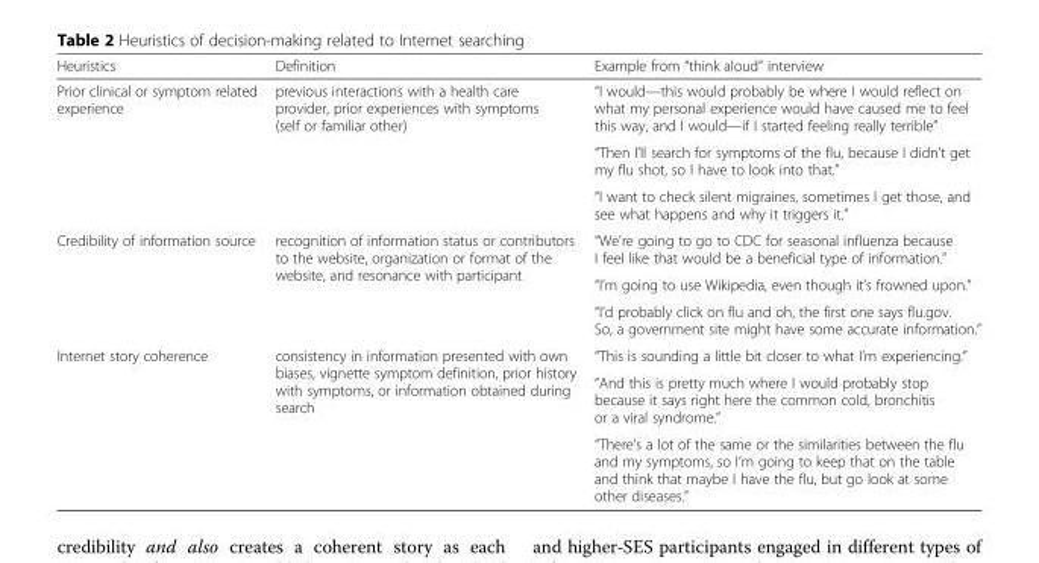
<table><thead><tr><td>Heuristics</td><td>Definition</td><td>Example from “think aloud” interview</td></tr></thead><tbody><tr><td rowspan="3">Prior clinical or symptom related experience</td><td rowspan="3">previous interactions with a health care provider, prior experiences with symptoms (self or familiar other)</td><td>“I would—this would probably be where I would reflect on what my personal experience would have caused me to feel this way, and I would—if I started feeling really terrible”</td></tr><tr><td>“Then I’ll search for symptoms of the flu, because I didn’t get my flu shot, so I have to look into that.”</td></tr><tr><td>“I want to check silent migraines, sometimes I get those, and see what happens and why it triggers it.”</td></tr><tr><td rowspan="3">Credibility of information source</td><td rowspan="3">recognition of information status or contributors to the website, organization or format of the website, and resonance with participant</td><td>“We&#x27;re going to go to CDC for seasonal influenza because I feel like that would be a beneficial type of information.”</td></tr><tr><td>“I’m going to use Wikipedia, even though it’s frowned upon.”</td></tr><tr><td>“I’d probably click on flu and oh, the first one says flu.gov. So, a government site might have some accurate information.”</td></tr><tr><td rowspan="3">Internet story coherence</td><td rowspan="3">consistency in information presented with own biases, vignette symptom definition, prior history with symptoms, or information obtained during search</td><td>“This is sounding a little bit closer to what I’m experiencing.”</td></tr><tr><td>“And this is pretty much where I would probably stop because it says right here the common cold, bronchitis or a viral syndrome.”</td></tr><tr><td>“There’s a lot of the same or the similarities between the flu and my symptoms, so I’m going to keep that on the table and think that maybe I have the flu, but go look at some other diseases.”</td></tr></tbody></table>